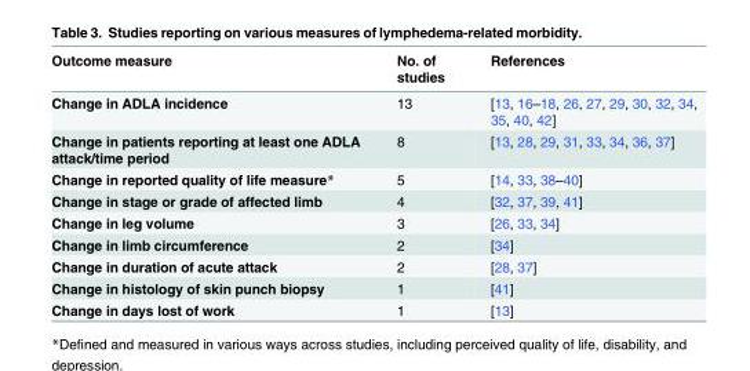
<table><thead><tr><td>Outcome measure</td><td>No. of studies</td><td>References</td></tr></thead><tbody><tr><td>Change in ADLA incidence</td><td>13</td><td>[13, 16–18, 26, 27, 29, 30, 32, 34, 35, 40, 42]</td></tr><tr><td>Change in patients reporting at least one ADLA attack/time period</td><td>8</td><td>[13, 28, 29, 31, 33, 34, 36, 37]</td></tr><tr><td>Change in reported quality of life measure*</td><td>5</td><td>[14, 33, 38–40]</td></tr><tr><td>Change in stage or grade of affected limb</td><td>4</td><td>[32, 37, 39, 41]</td></tr><tr><td>Change in leg volume</td><td>3</td><td>[26, 33, 34]</td></tr><tr><td>Change in limb circumference</td><td>2</td><td>[34]</td></tr><tr><td>Change in duration of acute attack</td><td>2</td><td>[28, 37]</td></tr><tr><td>Change in histology of skin punch biopsy</td><td>1</td><td>[41]</td></tr><tr><td>Change in days lost of work</td><td>1</td><td>[13]</td></tr></tbody></table>